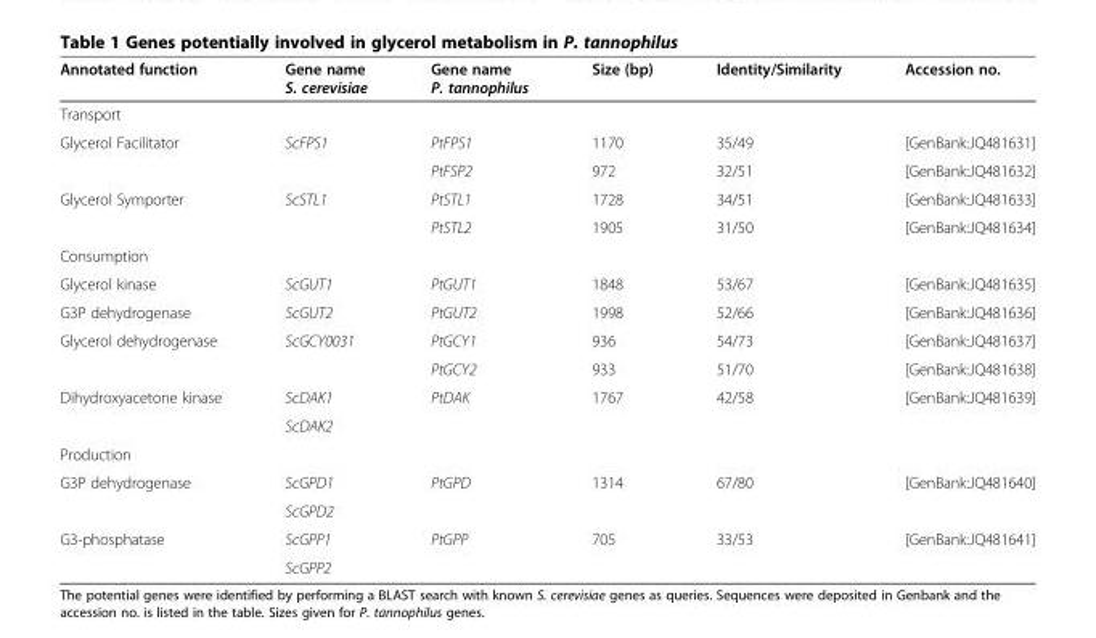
<table><thead><tr><td>Annotated function</td><td>Gene name S. cerevisiae</td><td>Gene name P. tannophilus</td><td>Size (bp)</td><td>Identity/Similarity</td><td>Accession no.</td></tr></thead><tbody><tr><td colspan="6">Transport</td></tr><tr><td rowspan="2">Glycerol Facilitator</td><td>ScFPS1</td><td>PtFPS1</td><td>1170</td><td>35/49</td><td>[GenBank:JQ481631]</td></tr><tr><td></td><td>PtFSP2</td><td>972</td><td>32/51</td><td>[GenBank:JQ481632]</td></tr><tr><td rowspan="2">Glycerol Symporter</td><td>ScSTL1</td><td>PtSTL1</td><td>1728</td><td>34/51</td><td>[GenBank:JQ481633]</td></tr><tr><td></td><td>PtSTL2</td><td>1905</td><td>31/50</td><td>[GenBank:JQ481634]</td></tr><tr><td colspan="6">Consumption</td></tr><tr><td>Glycerol kinase</td><td>ScGUT1</td><td>PtGUT1</td><td>1848</td><td>53/67</td><td>[GenBank:JQ481635]</td></tr><tr><td>G3P dehydrogenase</td><td>ScGUT2</td><td>PtGUT2</td><td>1998</td><td>52/66</td><td>[GenBank:JQ481636]</td></tr><tr><td rowspan="2">Glycerol dehydrogenase</td><td>ScGCY0031</td><td>PtGCY1</td><td>936</td><td>54/73</td><td>[GenBank:JQ481637]</td></tr><tr><td></td><td>PtGCY2</td><td>933</td><td>51/70</td><td>[GenBank:JQ481638]</td></tr><tr><td rowspan="2">Dihydroxyacetone kinase</td><td>ScDAK1</td><td>PtDAK</td><td>1767</td><td>42/58</td><td>[GenBank:JQ481639]</td></tr><tr><td>ScDAK2</td><td></td><td></td><td></td><td></td></tr><tr><td colspan="6">Production</td></tr><tr><td rowspan="2">G3P dehydrogenase</td><td>ScGPD1</td><td>PtGPD</td><td>1314</td><td>67/80</td><td>[GenBank:JQ481640]</td></tr><tr><td>ScGPD2</td><td></td><td></td><td></td><td></td></tr><tr><td rowspan="2">G3-phosphatase</td><td>ScGPP1</td><td>PtGPP</td><td>705</td><td>33/53</td><td>[GenBank:JQ481641]</td></tr><tr><td>ScGPP2</td><td></td><td></td><td></td><td></td></tr></tbody></table>